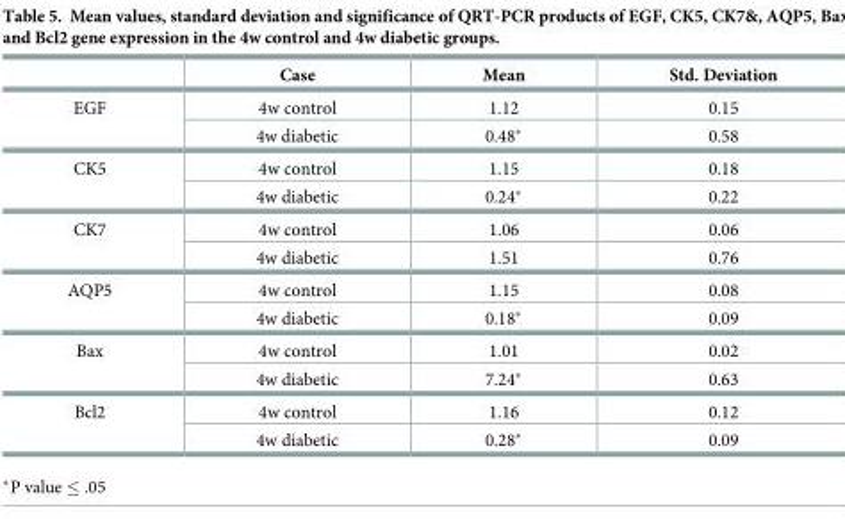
<table><thead><tr><td></td><td>Case</td><td>Mean</td><td>Std. Deviation</td></tr></thead><tbody><tr><td rowspan="2">EGF</td><td>4w control</td><td>1.12</td><td>0.15</td></tr><tr><td>4w diabetic</td><td>0.48*</td><td>0.58</td></tr><tr><td rowspan="2">CK5</td><td>4w control</td><td>1.15</td><td>0.18</td></tr><tr><td>4w diabetic</td><td>0.24*</td><td>0.22</td></tr><tr><td rowspan="2">CK7</td><td>4w control</td><td>1.06</td><td>0.06</td></tr><tr><td>4w diabetic</td><td>1.51</td><td>0.76</td></tr><tr><td rowspan="2">AQP5</td><td>4w control</td><td>1.15</td><td>0.08</td></tr><tr><td>4w diabetic</td><td>0.18*</td><td>0.09</td></tr><tr><td rowspan="2">Bax</td><td>4w control</td><td>1.01</td><td>0.02</td></tr><tr><td>4w diabetic</td><td>7.24*</td><td>0.63</td></tr><tr><td rowspan="2">Bcl2</td><td>4w control</td><td>1.16</td><td>0.12</td></tr><tr><td>4w diabetic</td><td>0.28*</td><td>0.09</td></tr></tbody></table>